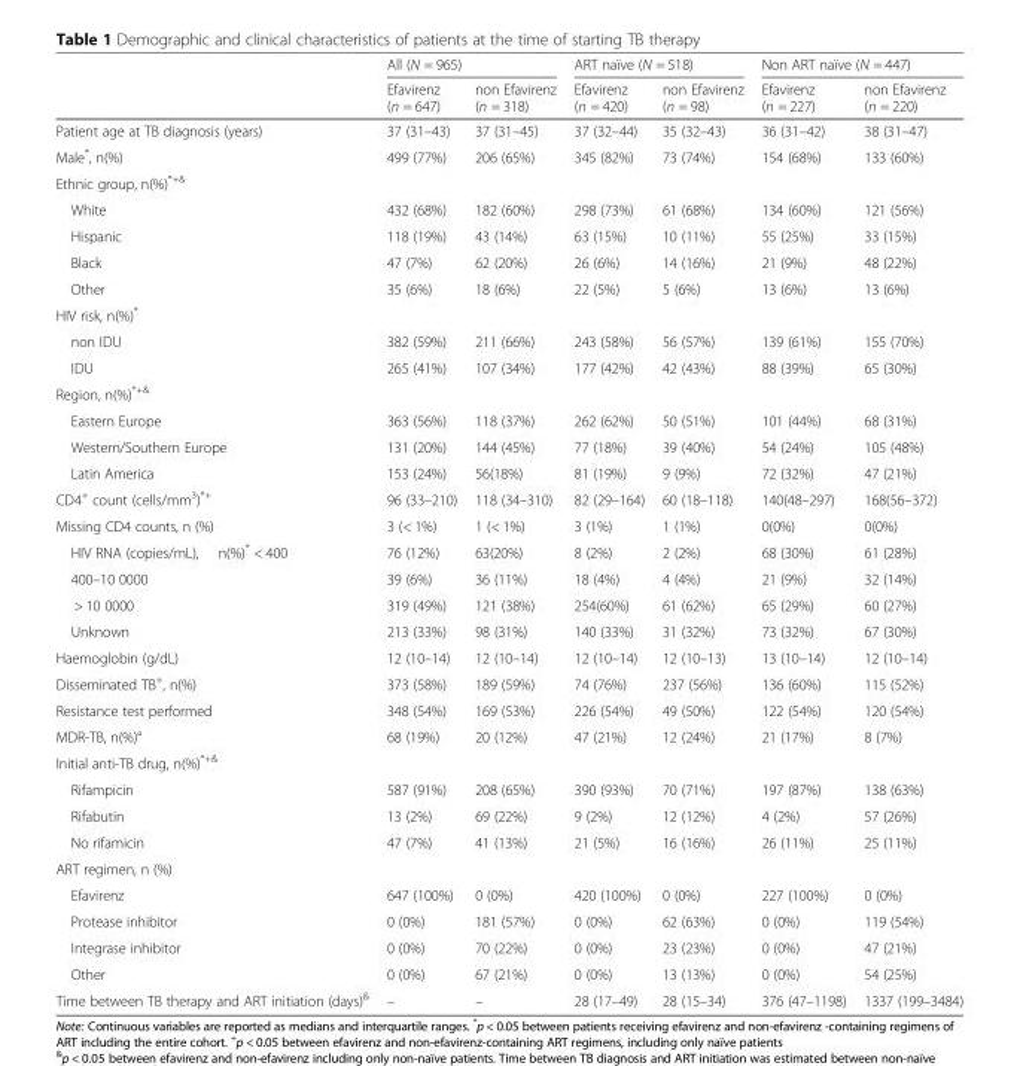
<table><thead><tr><td rowspan="2"></td><td colspan="2">All (N = 965)</td><td colspan="2">ART naïve (N = 518)</td><td colspan="2">Non ART naïve (N = 447)</td></tr><tr><td>Efavirenz (n = 647)</td><td>non Efavirenz (n = 318)</td><td>Efavirenz (n = 420)</td><td>non Efavirenz (n = 98)</td><td>Efavirenz (n = 227)</td><td>non Efavirenz (n = 220)</td></tr></thead><tbody><tr><td>Patient age at TB diagnosis (years)</td><td>37 (31–43)</td><td>37 (31–45)</td><td>37 (32–44)</td><td>35 (32–43)</td><td>36 (31–42)</td><td>38 (31–47)</td></tr><tr><td>Male*, n(%)</td><td>499 (77%)</td><td>206 (65%)</td><td>345 (82%)</td><td>73 (74%)</td><td>154 (68%)</td><td>133 (60%)</td></tr><tr><td colspan="7">Ethnic group, n(%)<sup>*+&amp;</sup></td></tr><tr><td>White</td><td>432 (68%)</td><td>182 (60%)</td><td>298 (73%)</td><td>61 (68%)</td><td>134 (60%)</td><td>121 (56%)</td></tr><tr><td>Hispanic</td><td>118 (19%)</td><td>43 (14%)</td><td>63 (15%)</td><td>10 (11%)</td><td>55 (25%)</td><td>33 (15%)</td></tr><tr><td>Black</td><td>47 (7%)</td><td>62 (20%)</td><td>26 (6%)</td><td>14 (16%)</td><td>21 (9%)</td><td>48 (22%)</td></tr><tr><td>Other</td><td>35 (6%)</td><td>18 (6%)</td><td>22 (5%)</td><td>5 (6%)</td><td>13 (6%)</td><td>13 (6%)</td></tr><tr><td colspan="7">HIV risk, n(%)*</td></tr><tr><td>non IDU</td><td>382 (59%)</td><td>211 (66%)</td><td>243 (58%)</td><td>56 (57%)</td><td>139 (61%)</td><td>155 (70%)</td></tr><tr><td>IDU</td><td>265 (41%)</td><td>107 (34%)</td><td>177 (42%)</td><td>42 (43%)</td><td>88 (39%)</td><td>65 (30%)</td></tr><tr><td colspan="7">Region, n(%)<sup>*+&amp;</sup></td></tr><tr><td>Eastern Europe</td><td>363 (56%)</td><td>118 (37%)</td><td>262 (62%)</td><td>50 (51%)</td><td>101 (44%)</td><td>68 (31%)</td></tr><tr><td>Western/Southern Europe</td><td>131 (20%)</td><td>144 (45%)</td><td>77 (18%)</td><td>39 (40%)</td><td>54 (24%)</td><td>105 (48%)</td></tr><tr><td>Latin America</td><td>153 (24%)</td><td>56(18%)</td><td>81 (19%)</td><td>9 (9%)</td><td>72 (32%)</td><td>47 (21%)</td></tr><tr><td>CD4<sup>+</sup> count (cells/mm<sup>3</sup>)<sup>*+</sup></td><td>96 (33–210)</td><td>118 (34–310)</td><td>82 (29–164)</td><td>60 (18–118)</td><td>140(48–297)</td><td>168(56–372)</td></tr><tr><td>Missing CD4 counts, n (%)</td><td>3 (&lt; 1%)</td><td>1 (&lt; 1%)</td><td>3 (1%)</td><td>1 (1%)</td><td>0(0%)</td><td>0(0%)</td></tr><tr><td>HIV RNA (copies/mL), n(%)* &lt; 400</td><td>76 (12%)</td><td>63(20%)</td><td>8 (2%)</td><td>2 (2%)</td><td>68 (30%)</td><td>61 (28%)</td></tr><tr><td>400–10 0000</td><td>39 (6%)</td><td>36 (11%)</td><td>18 (4%)</td><td>4 (4%)</td><td>21 (9%)</td><td>32 (14%)</td></tr><tr><td>&gt; 10 0000</td><td>319 (49%)</td><td>121 (38%)</td><td>254(60%)</td><td>61 (62%)</td><td>65 (29%)</td><td>60 (27%)</td></tr><tr><td>Unknown</td><td>213 (33%)</td><td>98 (31%)</td><td>140 (33%)</td><td>31 (32%)</td><td>73 (32%)</td><td>67 (30%)</td></tr><tr><td>Haemoglobin (g/dL)</td><td>12 (10–14)</td><td>12 (10–14)</td><td>12 (10–14)</td><td>12 (10–13)</td><td>13 (10–14)</td><td>12 (10–14)</td></tr><tr><td>Disseminated TB<sup>+</sup>, n(%)</td><td>373 (58%)</td><td>189 (59%)</td><td>74 (76%)</td><td>237 (56%)</td><td>136 (60%)</td><td>115 (52%)</td></tr><tr><td>Resistance test performed</td><td>348 (54%)</td><td>169 (53%)</td><td>226 (54%)</td><td>49 (50%)</td><td>122 (54%)</td><td>120 (54%)</td></tr><tr><td>MDR-TB, n(%)°</td><td>68 (19%)</td><td>20 (12%)</td><td>47 (21%)</td><td>12 (24%)</td><td>21 (17%)</td><td>8 (7%)</td></tr><tr><td colspan="7">Initial anti-TB drug, n(%)<sup>*+&amp;</sup></td></tr><tr><td>Rifampicin</td><td>587 (91%)</td><td>208 (65%)</td><td>390 (93%)</td><td>70 (71%)</td><td>197 (87%)</td><td>138 (63%)</td></tr><tr><td>Rifabutin</td><td>13 (2%)</td><td>69 (22%)</td><td>9 (2%)</td><td>12 (12%)</td><td>4 (2%)</td><td>57 (26%)</td></tr><tr><td>No rifamicin</td><td>47 (7%)</td><td>41 (13%)</td><td>21 (5%)</td><td>16 (16%)</td><td>26 (11%)</td><td>25 (11%)</td></tr><tr><td colspan="7">ART regimen, n (%)</td></tr><tr><td>Efavirenz</td><td>647 (100%)</td><td>0 (0%)</td><td>420 (100%)</td><td>0 (0%)</td><td>227 (100%)</td><td>0 (0%)</td></tr><tr><td>Protease inhibitor</td><td>0 (0%)</td><td>181 (57%)</td><td>0 (0%)</td><td>62 (63%)</td><td>0 (0%)</td><td>119 (54%)</td></tr><tr><td>Integrase inhibitor</td><td>0 (0%)</td><td>70 (22%)</td><td>0 (0%)</td><td>23 (23%)</td><td>0 (0%)</td><td>47 (21%)</td></tr><tr><td>Other</td><td>0 (0%)</td><td>67 (21%)</td><td>0 (0%)</td><td>13 (13%)</td><td>0 (0%)</td><td>54 (25%)</td></tr><tr><td>Time between TB therapy and ART initiation (days)<sup>&amp;</sup></td><td>–</td><td>–</td><td>28 (17–49)</td><td>28 (15–34)</td><td>376 (47–1198)</td><td>1337 (199–3484)</td></tr></tbody></table>